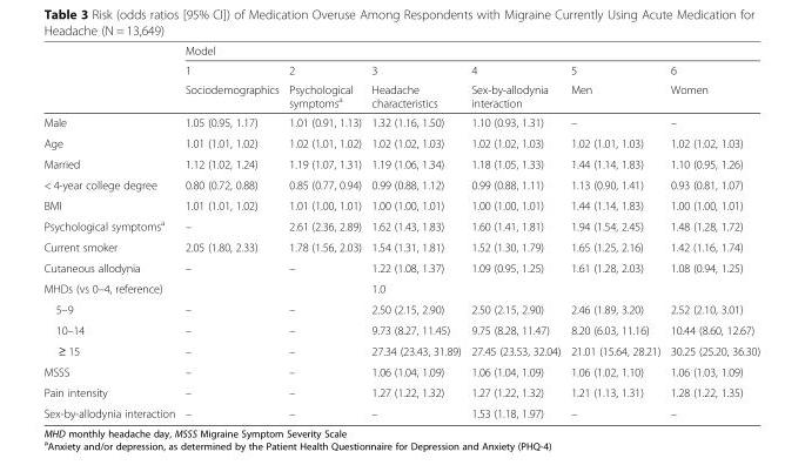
<table><thead><tr><td rowspan="3"></td><td colspan="6">Model</td></tr><tr><td rowspan="2">1 Sociodemographics</td><td rowspan="2">2 Psychological symptoms<sup>a</sup></td><td rowspan="2">3 Headache characteristics</td><td rowspan="2">4 Sex-by-allodynia interaction</td><td rowspan="2">5 Men</td><td rowspan="2">6 Women</td></tr><tr></tr></thead><tbody><tr><td>Male</td><td>1.05 (0.95, 1.17)</td><td>1.01 (0.91, 1.13)</td><td>1.32 (1.16, 1.50)</td><td>1.10 (0.93, 1.31)</td><td>–</td><td>–</td></tr><tr><td>Age</td><td>1.01 (1.01, 1.02)</td><td>1.02 (1.01, 1.02)</td><td>1.02 (1.02, 1.03)</td><td>1.02 (1.02, 1.03)</td><td>1.02 (1.01, 1.03)</td><td>1.02 (1.02, 1.03)</td></tr><tr><td>Married</td><td>1.12 (1.02, 1.24)</td><td>1.19 (1.07, 1.31)</td><td>1.19 (1.06, 1.34)</td><td>1.18 (1.05, 1.33)</td><td>1.44 (1.14, 1.83)</td><td>1.10 (0.95, 1.26)</td></tr><tr><td>&lt; 4-year college degree</td><td>0.80 (0.72, 0.88)</td><td>0.85 (0.77, 0.94)</td><td>0.99 (0.88, 1.12)</td><td>0.99 (0.88, 1.11)</td><td>1.13 (0.90, 1.41)</td><td>0.93 (0.81, 1.07)</td></tr><tr><td>BMI</td><td>1.01 (1.01, 1.02)</td><td>1.01 (1.00, 1.01)</td><td>1.00 (1.00, 1.01)</td><td>1.00 (1.00, 1.01)</td><td>1.44 (1.14, 1.83)</td><td>1.00 (1.00, 1.01)</td></tr><tr><td>Psychological symptoms<sup>a</sup></td><td>–</td><td>2.61 (2.36, 2.89)</td><td>1.62 (1.43, 1.83)</td><td>1.60 (1.41, 1.81)</td><td>1.94 (1.54, 2.45)</td><td>1.48 (1.28, 1.72)</td></tr><tr><td>Current smoker</td><td>2.05 (1.80, 2.33)</td><td>1.78 (1.56, 2.03)</td><td>1.54 (1.31, 1.81)</td><td>1.52 (1.30, 1.79)</td><td>1.65 (1.25, 2.16)</td><td>1.42 (1.16, 1.74)</td></tr><tr><td>Cutaneous allodynia</td><td>–</td><td>–</td><td>1.22 (1.08, 1.37)</td><td>1.09 (0.95, 1.25)</td><td>1.61 (1.28, 2.03)</td><td>1.08 (0.94, 1.25)</td></tr><tr><td>MHDs (vs 0–4, reference)</td><td></td><td></td><td>1.0</td><td></td><td></td><td></td></tr><tr><td>5–9</td><td>–</td><td>–</td><td>2.50 (2.15, 2.90)</td><td>2.50 (2.15, 2.90)</td><td>2.46 (1.89, 3.20)</td><td>2.52 (2.10, 3.01)</td></tr><tr><td>10–14</td><td>–</td><td>–</td><td>9.73 (8.27, 11.45)</td><td>9.75 (8.28, 11.47)</td><td>8.20 (6.03, 11.16)</td><td>10.44 (8.60, 12.67)</td></tr><tr><td>≥ 15</td><td>–</td><td>–</td><td>27.34 (23.43, 31.89)</td><td>27.45 (23.53, 32.04)</td><td>21.01 (15.64, 28.21)</td><td>30.25 (25.20, 36.30)</td></tr><tr><td>MSSS</td><td>–</td><td>–</td><td>1.06 (1.04, 1.09)</td><td>1.06 (1.04, 1.09)</td><td>1.06 (1.02, 1.10)</td><td>1.06 (1.03, 1.09)</td></tr><tr><td>Pain intensity</td><td>–</td><td>–</td><td>1.27 (1.22, 1.32)</td><td>1.27 (1.22, 1.32)</td><td>1.21 (1.13, 1.31)</td><td>1.28 (1.22, 1.35)</td></tr><tr><td>Sex-by-allodynia interaction</td><td>–</td><td>–</td><td>–</td><td>1.53 (1.18, 1.97)</td><td>–</td><td>–</td></tr></tbody></table>